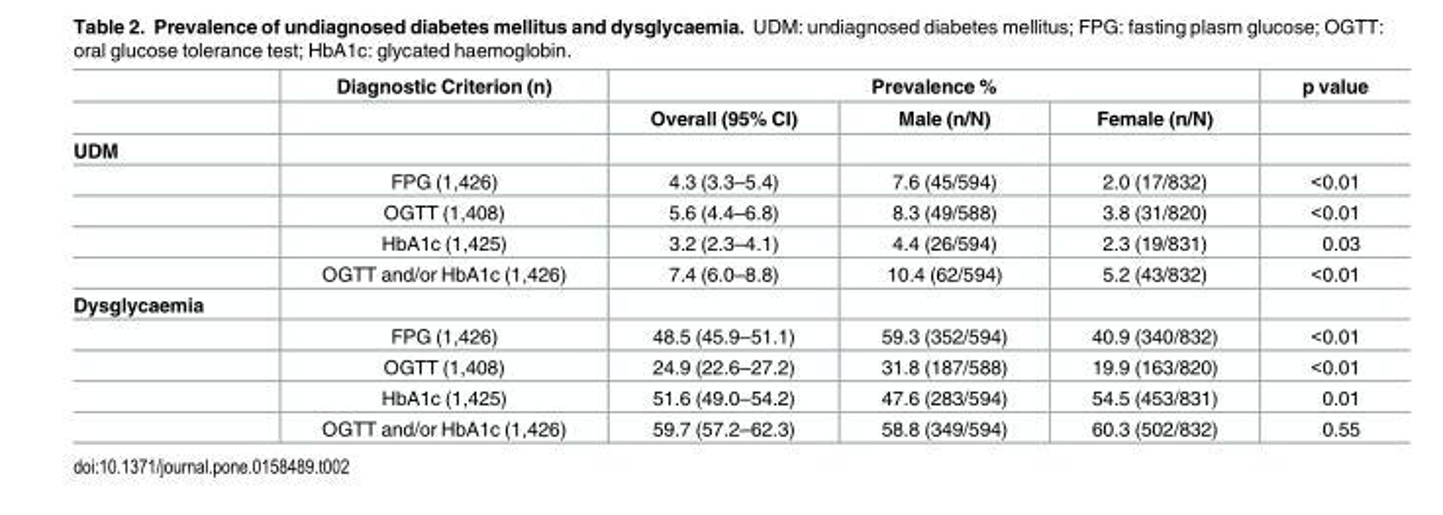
<table><thead><tr><td rowspan="2"></td><td rowspan="2">Diagnostic Criterion (n)</td><td colspan="3">Prevalence %</td><td rowspan="2">p value</td></tr><tr><td>Overall (95% CI)</td><td>Male (n/N)</td><td>Female (n/N)</td></tr></thead><tbody><tr><td colspan="6">UDM</td></tr><tr><td></td><td>FPG (1,426)</td><td>4.3 (3.3–5.4)</td><td>7.6 (45/594)</td><td>2.0 (17/832)</td><td>&lt;0.01</td></tr><tr><td></td><td>OGTT (1,408)</td><td>5.6 (4.4–6.8)</td><td>8.3 (49/588)</td><td>3.8 (31/820)</td><td>&lt;0.01</td></tr><tr><td></td><td>HbA1c (1,425)</td><td>3.2 (2.3–4.1)</td><td>4.4 (26/594)</td><td>2.3 (19/831)</td><td>0.03</td></tr><tr><td></td><td>OGTT and/or HbA1c (1,426)</td><td>7.4 (6.0–8.8)</td><td>10.4 (62/594)</td><td>5.2 (43/832)</td><td>&lt;0.01</td></tr><tr><td colspan="6">Dysglycaemia</td></tr><tr><td></td><td>FPG (1,426)</td><td>48.5 (45.9–51.1)</td><td>59.3 (352/594)</td><td>40.9 (340/832)</td><td>&lt;0.01</td></tr><tr><td></td><td>OGTT (1,408)</td><td>24.9 (22.6–27.2)</td><td>31.8 (187/588)</td><td>19.9 (163/820)</td><td>&lt;0.01</td></tr><tr><td></td><td>HbA1c (1,425)</td><td>51.6 (49.0–54.2)</td><td>47.6 (283/594)</td><td>54.5 (453/831)</td><td>0.01</td></tr><tr><td></td><td>OGTT and/or HbA1c (1,426)</td><td>59.7 (57.2–62.3)</td><td>58.8 (349/594)</td><td>60.3 (502/832)</td><td>0.55</td></tr></tbody></table>